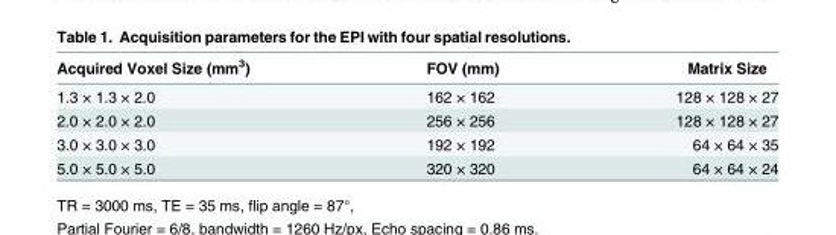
<table><thead><tr><td>Acquired Voxel Size (mm<sup>3</sup>)</td><td>FOV (mm)</td><td>Matrix Size</td></tr></thead><tbody><tr><td>1.3 × 1.3 × 2.0</td><td>162 × 162</td><td>128 × 128 × 27</td></tr><tr><td>2.0 × 2.0 × 2.0</td><td>256 × 256</td><td>128 × 128 × 27</td></tr><tr><td>3.0 × 3.0 × 3.0</td><td>192 × 192</td><td>64 × 64 × 35</td></tr><tr><td>5.0 × 5.0 × 5.0</td><td>320 × 320</td><td>64 × 64 × 24</td></tr></tbody></table>